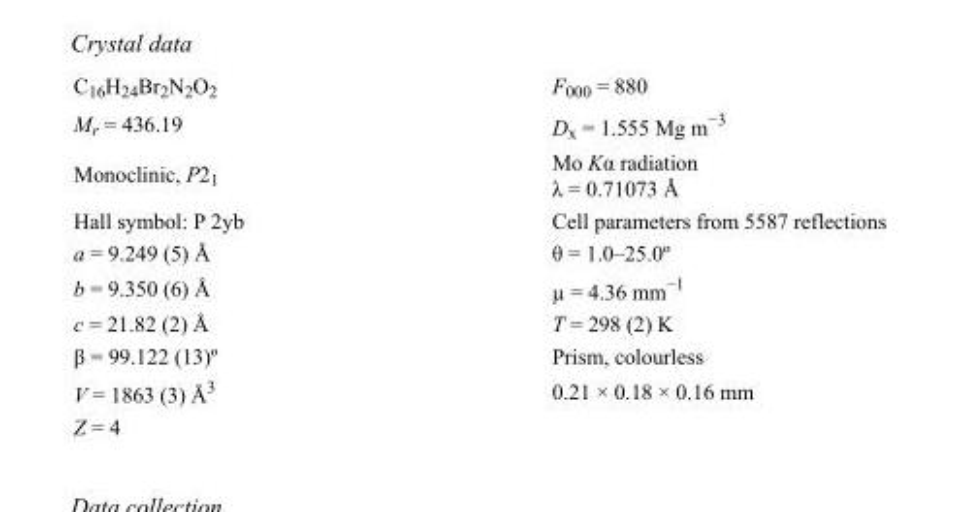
<table><tbody><tr><td>C<sub>16</sub>H<sub>24</sub>Br<sub>2</sub>N<sub>2</sub>O<sub>2</sub></td><td>F000 = 880</td></tr><tr><td>M<sub>r</sub> = 436.19</td><td>D<sub>x</sub> = 1.555 Mg m<sup>−3</sup></td></tr><tr><td>Monoclinic, P2<sub>1</sub></td><td>Mo Kα radiation λ = 0.71073 Å</td></tr><tr><td>Hall symbol: P 2yb</td><td>Cell parameters from 5587 reflections</td></tr><tr><td>a = 9.249 (5) Å</td><td>θ = 1.0–25.0º</td></tr><tr><td>b = 9.350 (6) Å</td><td>µ = 4.36 mm<sup>−1</sup></td></tr><tr><td>c = 21.82 (2) Å</td><td>T = 298 (2) K</td></tr><tr><td>β = 99.122 (13)º</td><td>Prism, colourless</td></tr><tr><td>V = 1863 (3) Å<sup>3</sup></td><td>0.21 × 0.18 × 0.16 mm</td></tr><tr><td>Z = 4</td><td></td></tr></tbody></table>